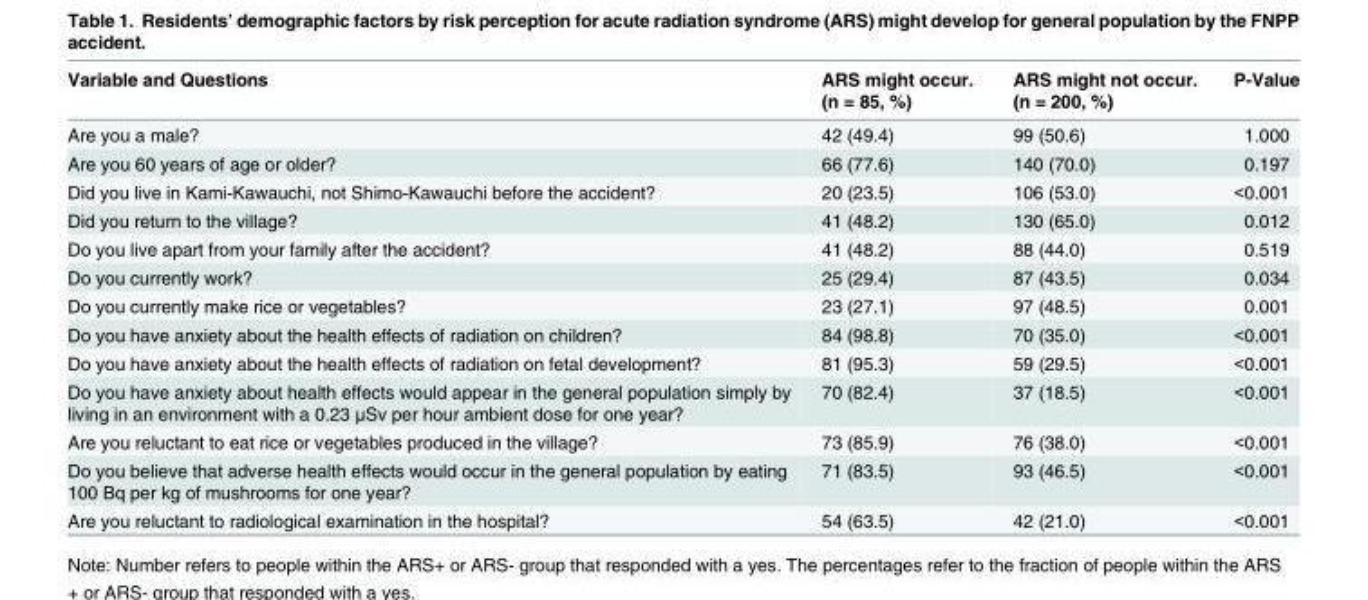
<table><thead><tr><td>Variable and Questions</td><td>ARS might occur. (n = 85, %)</td><td>ARS might not occur. (n = 200, %)</td><td>P-Value</td></tr></thead><tbody><tr><td>Are you a male?</td><td>42 (49.4)</td><td>99 (50.6)</td><td>1.000</td></tr><tr><td>Are you 60 years of age or older?</td><td>66 (77.6)</td><td>140 (70.0)</td><td>0.197</td></tr><tr><td>Did you live in Kami-Kawauchi, not Shimo-Kawauchi before the accident?</td><td>20 (23.5)</td><td>106 (53.0)</td><td>&lt;0.001</td></tr><tr><td>Did you return to the village?</td><td>41 (48.2)</td><td>130 (65.0)</td><td>0.012</td></tr><tr><td>Do you live apart from your family after the accident?</td><td>41 (48.2)</td><td>88 (44.0)</td><td>0.519</td></tr><tr><td>Do you currently work?</td><td>25 (29.4)</td><td>87 (43.5)</td><td>0.034</td></tr><tr><td>Do you currently make rice or vegetables?</td><td>23 (27.1)</td><td>97 (48.5)</td><td>0.001</td></tr><tr><td>Do you have anxiety about the health effects of radiation on children?</td><td>84 (98.8)</td><td>70 (35.0)</td><td>&lt;0.001</td></tr><tr><td>Do you have anxiety about the health effects of radiation on fetal development?</td><td>81 (95.3)</td><td>59 (29.5)</td><td>&lt;0.001</td></tr><tr><td>Do you have anxiety about health effects would appear in the general population simply by living in an environment with a 0.23 μSv per hour ambient dose for one year?</td><td>70 (82.4)</td><td>37 (18.5)</td><td>&lt;0.001</td></tr><tr><td>Are you reluctant to eat rice or vegetables produced in the village?</td><td>73 (85.9)</td><td>76 (38.0)</td><td>&lt;0.001</td></tr><tr><td>Do you believe that adverse health effects would occur in the general population by eating 100 Bq per kg of mushrooms for one year?</td><td>71 (83.5)</td><td>93 (46.5)</td><td>&lt;0.001</td></tr><tr><td>Are you reluctant to radiological examination in the hospital?</td><td>54 (63.5)</td><td>42 (21.0)</td><td>&lt;0.001</td></tr></tbody></table>